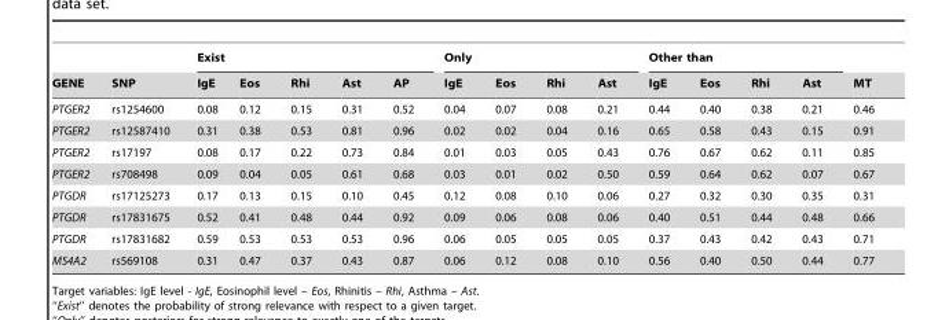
<table><thead><tr><td rowspan="2">GENE</td><td rowspan="2">SNP</td><td colspan="5">Exist</td><td colspan="4">Only</td><td colspan="4">Other than</td><td rowspan="2">MT</td></tr><tr><td>IgE</td><td>Eos</td><td>Rhi</td><td>Ast</td><td>AP</td><td>IgE</td><td>Eos</td><td>Rhi</td><td>Ast</td><td>IgE</td><td>Eos</td><td>Rhi</td><td>Ast</td></tr></thead><tbody><tr><td>PTGER2</td><td>rs1254600</td><td>0.08</td><td>0.12</td><td>0.15</td><td>0.31</td><td>0.52</td><td>0.04</td><td>0.07</td><td>0.08</td><td>0.21</td><td>0.44</td><td>0.40</td><td>0.38</td><td>0.21</td><td>0.46</td></tr><tr><td>PTGER2</td><td>rs12587410</td><td>0.31</td><td>0.38</td><td>0.53</td><td>0.81</td><td>0.96</td><td>0.02</td><td>0.02</td><td>0.04</td><td>0.16</td><td>0.65</td><td>0.58</td><td>0.43</td><td>0.15</td><td>0.91</td></tr><tr><td>PTGER2</td><td>rs17197</td><td>0.08</td><td>0.17</td><td>0.22</td><td>0.73</td><td>0.84</td><td>0.01</td><td>0.03</td><td>0.05</td><td>0.43</td><td>0.76</td><td>0.67</td><td>0.62</td><td>0.11</td><td>0.85</td></tr><tr><td>PTGER2</td><td>rs708498</td><td>0.09</td><td>0.04</td><td>0.05</td><td>0.61</td><td>0.68</td><td>0.03</td><td>0.01</td><td>0.02</td><td>0.50</td><td>0.59</td><td>0.64</td><td>0.62</td><td>0.07</td><td>0.67</td></tr><tr><td>PTGDR</td><td>rs17125273</td><td>0.17</td><td>0.13</td><td>0.15</td><td>0.10</td><td>0.45</td><td>0.12</td><td>0.08</td><td>0.10</td><td>0.06</td><td>0.27</td><td>0.32</td><td>0.30</td><td>0.35</td><td>0.31</td></tr><tr><td>PTGDR</td><td>rs17831675</td><td>0.52</td><td>0.41</td><td>0.48</td><td>0.44</td><td>0.92</td><td>0.09</td><td>0.06</td><td>0.08</td><td>0.06</td><td>0.40</td><td>0.51</td><td>0.44</td><td>0.48</td><td>0.66</td></tr><tr><td>PTGDR</td><td>rs17831682</td><td>0.59</td><td>0.53</td><td>0.53</td><td>0.53</td><td>0.96</td><td>0.06</td><td>0.05</td><td>0.05</td><td>0.05</td><td>0.37</td><td>0.43</td><td>0.42</td><td>0.43</td><td>0.71</td></tr><tr><td>MS4A2</td><td>rs569108</td><td>0.31</td><td>0.47</td><td>0.37</td><td>0.43</td><td>0.87</td><td>0.06</td><td>0.12</td><td>0.08</td><td>0.10</td><td>0.56</td><td>0.40</td><td>0.50</td><td>0.44</td><td>0.77</td></tr></tbody></table>